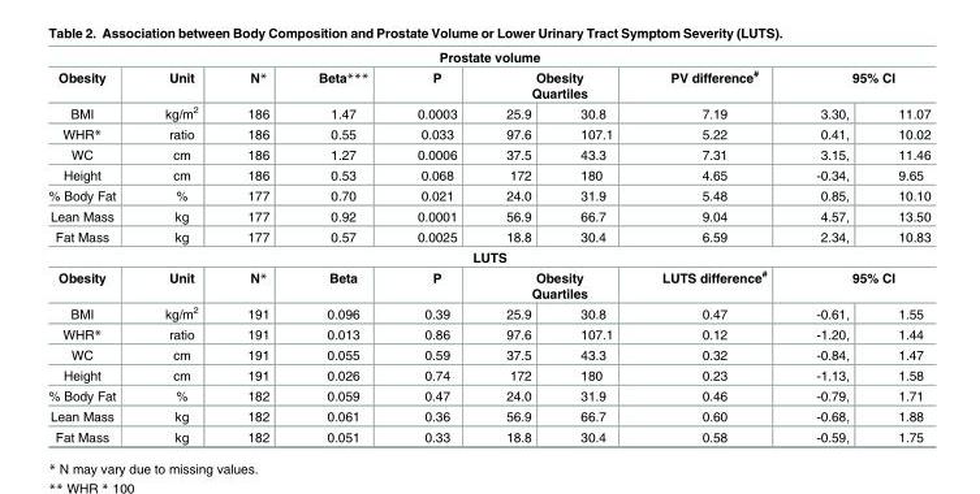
<table><tbody><tr><td colspan="10">Prostate volume</td></tr><tr><td>Obesity</td><td>Unit</td><td>N*</td><td>Beta***</td><td>P</td><td colspan="2">Obesity Quartiles</td><td>PV difference<sup>#</sup></td><td colspan="2">95% CI</td></tr><tr><td>BMI</td><td>kg/m<sup>2</sup></td><td>186</td><td>1.47</td><td>0.0003</td><td>25.9</td><td>30.8</td><td>7.19</td><td>3.30,</td><td>11.07</td></tr><tr><td>WHR*</td><td>ratio</td><td>186</td><td>0.55</td><td>0.033</td><td>97.6</td><td>107.1</td><td>5.22</td><td>0.41,</td><td>10.02</td></tr><tr><td>WC</td><td>cm</td><td>186</td><td>1.27</td><td>0.0006</td><td>37.5</td><td>43.3</td><td>7.31</td><td>3.15,</td><td>11.46</td></tr><tr><td>Height</td><td>cm</td><td>186</td><td>0.53</td><td>0.068</td><td>172</td><td>180</td><td>4.65</td><td>-0.34,</td><td>9.65</td></tr><tr><td>% Body Fat</td><td>%</td><td>177</td><td>0.70</td><td>0.021</td><td>24.0</td><td>31.9</td><td>5.48</td><td>0.85,</td><td>10.10</td></tr><tr><td>Lean Mass</td><td>kg</td><td>177</td><td>0.92</td><td>0.0001</td><td>56.9</td><td>66.7</td><td>9.04</td><td>4.57,</td><td>13.50</td></tr><tr><td>Fat Mass</td><td>kg</td><td>177</td><td>0.57</td><td>0.0025</td><td>18.8</td><td>30.4</td><td>6.59</td><td>2.34,</td><td>10.83</td></tr><tr><td colspan="10">LUTS</td></tr><tr><td>Obesity</td><td>Unit</td><td>N*</td><td>Beta</td><td>P</td><td colspan="2">Obesity Quartiles</td><td>LUTS difference<sup>#</sup></td><td colspan="2">95% CI</td></tr><tr><td>BMI</td><td>kg/m<sup>2</sup></td><td>191</td><td>0.096</td><td>0.39</td><td>25.9</td><td>30.8</td><td>0.47</td><td>-0.61,</td><td>1.55</td></tr><tr><td>WHR*</td><td>ratio</td><td>191</td><td>0.013</td><td>0.86</td><td>97.6</td><td>107.1</td><td>0.12</td><td>-1.20,</td><td>1.44</td></tr><tr><td>WC</td><td>cm</td><td>191</td><td>0.055</td><td>0.59</td><td>37.5</td><td>43.3</td><td>0.32</td><td>-0.84,</td><td>1.47</td></tr><tr><td>Height</td><td>cm</td><td>191</td><td>0.026</td><td>0.74</td><td>172</td><td>180</td><td>0.23</td><td>-1.13,</td><td>1.58</td></tr><tr><td>% Body Fat</td><td>%</td><td>182</td><td>0.059</td><td>0.47</td><td>24.0</td><td>31.9</td><td>0.46</td><td>-0.79,</td><td>1.71</td></tr><tr><td>Lean Mass</td><td>kg</td><td>182</td><td>0.061</td><td>0.36</td><td>56.9</td><td>66.7</td><td>0.60</td><td>-0.68,</td><td>1.88</td></tr><tr><td>Fat Mass</td><td>kg</td><td>182</td><td>0.051</td><td>0.33</td><td>18.8</td><td>30.4</td><td>0.58</td><td>-0.59,</td><td>1.75</td></tr></tbody></table>